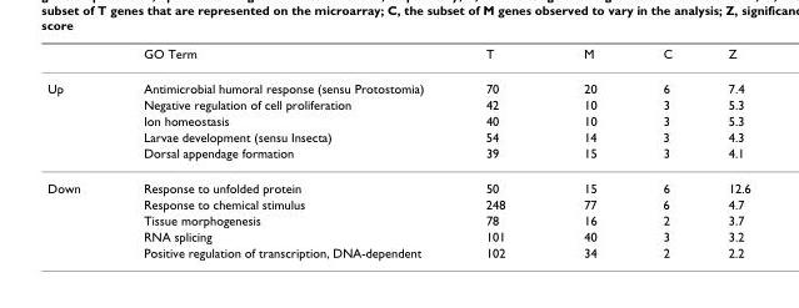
<table><thead><tr><td></td><td>GO Term</td><td>T</td><td>M</td><td>C</td><td>Z</td></tr></thead><tbody><tr><td rowspan="5">Up</td><td>Antimicrobial humoral response (sensu Protostomia)</td><td>70</td><td>20</td><td>6</td><td>7.4</td></tr><tr><td>Negative regulation of cell proliferation</td><td>42</td><td>10</td><td>3</td><td>5.3</td></tr><tr><td>Ion homeostasis</td><td>40</td><td>10</td><td>3</td><td>5.3</td></tr><tr><td>Larvae development (sensu Insecta)</td><td>54</td><td>14</td><td>3</td><td>4.3</td></tr><tr><td>Dorsal appendage formation</td><td>39</td><td>15</td><td>3</td><td>4.1</td></tr><tr><td rowspan="5">Down</td><td>Response to unfolded protein</td><td>50</td><td>15</td><td>6</td><td>12.6</td></tr><tr><td>Response to chemical stimulus</td><td>248</td><td>77</td><td>6</td><td>4.7</td></tr><tr><td>Tissue morphogenesis</td><td>78</td><td>16</td><td>2</td><td>3.7</td></tr><tr><td>RNA splicing</td><td>101</td><td>40</td><td>3</td><td>3.2</td></tr><tr><td>Positive regulation of transcription, DNA-dependent</td><td>102</td><td>34</td><td>2</td><td>2.2</td></tr></tbody></table>